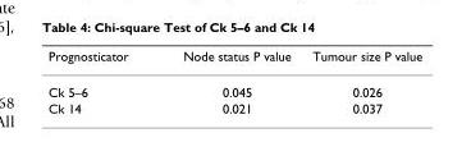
<table><thead><tr><td>Prognosticator</td><td>Node status P value</td><td>Tumour size P value</td></tr></thead><tbody><tr><td>Ck 5–6</td><td>0.045</td><td>0.026</td></tr><tr><td>Ck 14</td><td>0.021</td><td>0.037</td></tr></tbody></table>